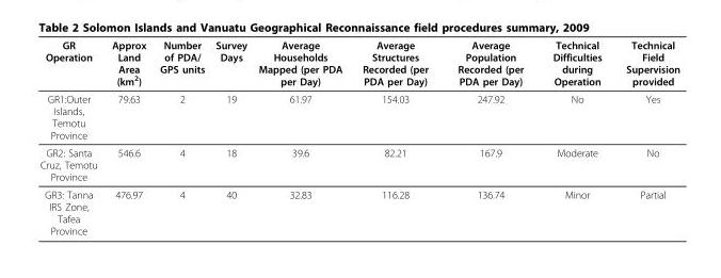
<table><thead><tr><td>GR Operation</td><td>Approx Land Area (km<sup>2</sup>)</td><td>Number of PDA/ GPS units</td><td>Survey Days</td><td>Average Households Mapped (per PDA per Day)</td><td>Average Structures Recorded (per PDA per Day)</td><td>Average Population Recorded (per PDA per Day)</td><td>Technical Difficulties during Operation</td><td>Technical Field Supervision provided</td></tr></thead><tbody><tr><td>GR1:Outer Islands, Temotu Province</td><td>79.63</td><td>2</td><td>19</td><td>61.97</td><td>154.03</td><td>247.92</td><td>No</td><td>Yes</td></tr><tr><td>GR2: Santa Cruz, Temotu Province</td><td>546.6</td><td>4</td><td>18</td><td>39.6</td><td>82.21</td><td>167.9</td><td>Moderate</td><td>No</td></tr><tr><td>GR3: Tanna IRS Zone, Tafea Province</td><td>476.97</td><td>4</td><td>40</td><td>32.83</td><td>116.28</td><td>136.74</td><td>Minor</td><td>Partial</td></tr></tbody></table>